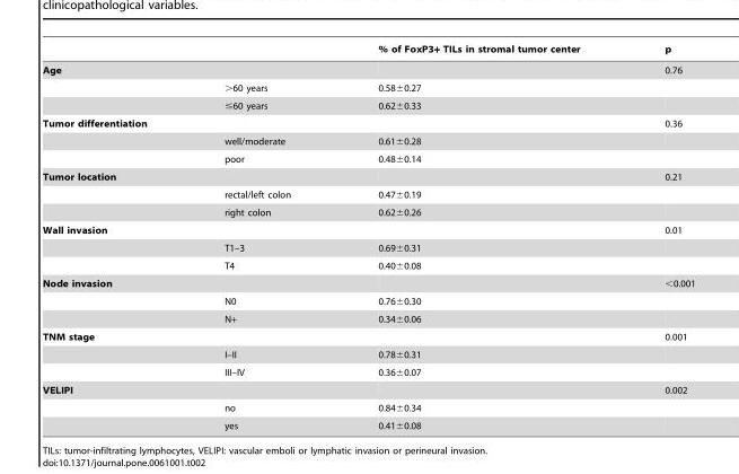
<table><thead><tr><td></td><td></td><td>% of FoxP3+ TILs in stromal tumor center</td><td>p</td></tr></thead><tbody><tr><td rowspan="3">Age</td><td></td><td></td><td>0.76</td></tr><tr><td>&gt;60 years</td><td>0.58±0.27</td><td></td></tr><tr><td>≤60 years</td><td>0.62±0.33</td><td></td></tr><tr><td rowspan="3">Tumor differentiation</td><td></td><td></td><td>0.36</td></tr><tr><td>well/moderate</td><td>0.61±0.28</td><td></td></tr><tr><td>poor</td><td>0.48±0.14</td><td></td></tr><tr><td rowspan="3">Tumor location</td><td></td><td></td><td>0.21</td></tr><tr><td>rectal/left colon</td><td>0.47±0.19</td><td></td></tr><tr><td>right colon</td><td>0.62±0.26</td><td></td></tr><tr><td rowspan="3">Wall invasion</td><td></td><td></td><td>0.01</td></tr><tr><td>T1–3</td><td>0.69±0.31</td><td></td></tr><tr><td>T4</td><td>0.40±0.08</td><td></td></tr><tr><td rowspan="3">Node invasion</td><td></td><td></td><td>&lt;0.001</td></tr><tr><td>N0</td><td>0.76±0.30</td><td></td></tr><tr><td>N+</td><td>0.34±0.06</td><td></td></tr><tr><td rowspan="3">TNM stage</td><td></td><td></td><td>0.001</td></tr><tr><td>I–II</td><td>0.78±0.31</td><td></td></tr><tr><td>III–IV</td><td>0.36±0.07</td><td></td></tr><tr><td rowspan="3">VELIPI</td><td></td><td></td><td>0.002</td></tr><tr><td>no</td><td>0.84±0.34</td><td></td></tr><tr><td>yes</td><td>0.41±0.08</td><td></td></tr></tbody></table>